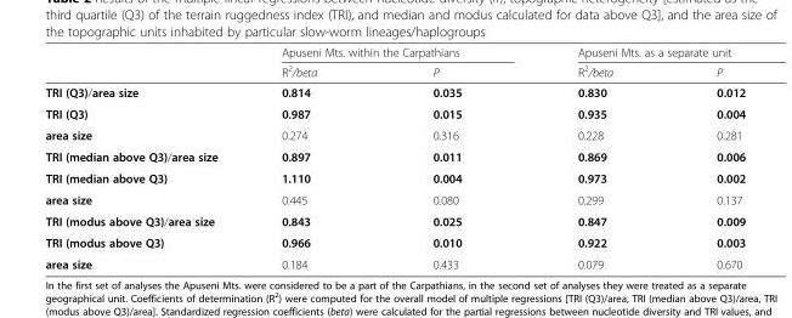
<table><thead><tr><td rowspan="2"></td><td colspan="2">Apuseni Mts. within the Carpathians</td><td colspan="2">Apuseni Mts. as a separate unit</td></tr><tr><td>R<sup>2</sup>/beta</td><td>P</td><td>R<sup>2</sup>/beta</td><td>P</td></tr></thead><tbody><tr><td>TRI (Q3)/area size</td><td>0.814</td><td>0.035</td><td>0.830</td><td>0.012</td></tr><tr><td>TRI (Q3)</td><td>0.987</td><td>0.015</td><td>0.935</td><td>0.004</td></tr><tr><td>area size</td><td>0.274</td><td>0.316</td><td>0.228</td><td>0.281</td></tr><tr><td>TRI (median above Q3)/area size</td><td>0.897</td><td>0.011</td><td>0.869</td><td>0.006</td></tr><tr><td>TRI (median above Q3)</td><td>1.110</td><td>0.004</td><td>0.973</td><td>0.002</td></tr><tr><td>area size</td><td>0.445</td><td>0.080</td><td>0.299</td><td>0.137</td></tr><tr><td>TRI (modus above Q3)/area size</td><td>0.843</td><td>0.025</td><td>0.847</td><td>0.009</td></tr><tr><td>TRI (modus above Q3)</td><td>0.966</td><td>0.010</td><td>0.922</td><td>0.003</td></tr><tr><td>area size</td><td>0.184</td><td>0.433</td><td>0.079</td><td>0.670</td></tr></tbody></table>